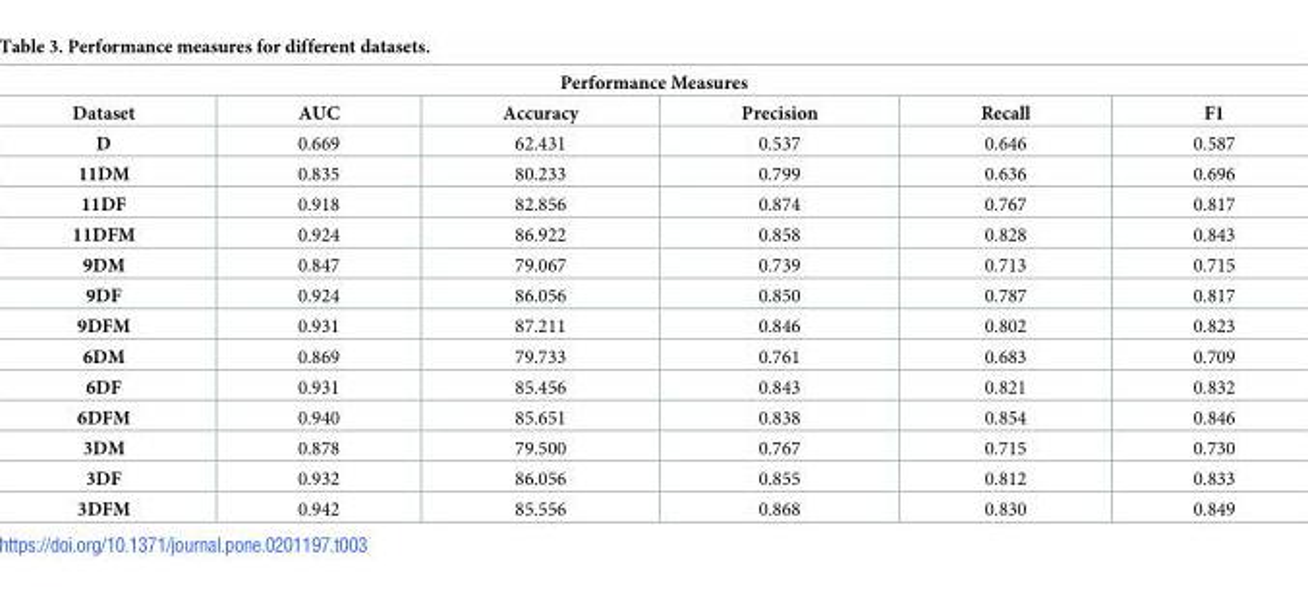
<table><thead><tr><td colspan="6">Performance Measures</td></tr><tr><td>Dataset</td><td>AUC</td><td>Accuracy</td><td>Precision</td><td>Recall</td><td>F1</td></tr></thead><tbody><tr><td>D</td><td>0.669</td><td>62.431</td><td>0.537</td><td>0.646</td><td>0.587</td></tr><tr><td>11DM</td><td>0.835</td><td>80.233</td><td>0.799</td><td>0.636</td><td>0.696</td></tr><tr><td>11DF</td><td>0.918</td><td>82.856</td><td>0.874</td><td>0.767</td><td>0.817</td></tr><tr><td>11DFM</td><td>0.924</td><td>86.922</td><td>0.858</td><td>0.828</td><td>0.843</td></tr><tr><td>9DM</td><td>0.847</td><td>79.067</td><td>0.739</td><td>0.713</td><td>0.715</td></tr><tr><td>9DF</td><td>0.924</td><td>86.056</td><td>0.850</td><td>0.787</td><td>0.817</td></tr><tr><td>9DFM</td><td>0.931</td><td>87.211</td><td>0.846</td><td>0.802</td><td>0.823</td></tr><tr><td>6DM</td><td>0.869</td><td>79.733</td><td>0.761</td><td>0.683</td><td>0.709</td></tr><tr><td>6DF</td><td>0.931</td><td>85.456</td><td>0.843</td><td>0.821</td><td>0.832</td></tr><tr><td>6DFM</td><td>0.940</td><td>85.651</td><td>0.838</td><td>0.854</td><td>0.846</td></tr><tr><td>3DM</td><td>0.878</td><td>79.500</td><td>0.767</td><td>0.715</td><td>0.730</td></tr><tr><td>3DF</td><td>0.932</td><td>86.056</td><td>0.855</td><td>0.812</td><td>0.833</td></tr><tr><td>3DFM</td><td>0.942</td><td>85.556</td><td>0.868</td><td>0.830</td><td>0.849</td></tr></tbody></table>